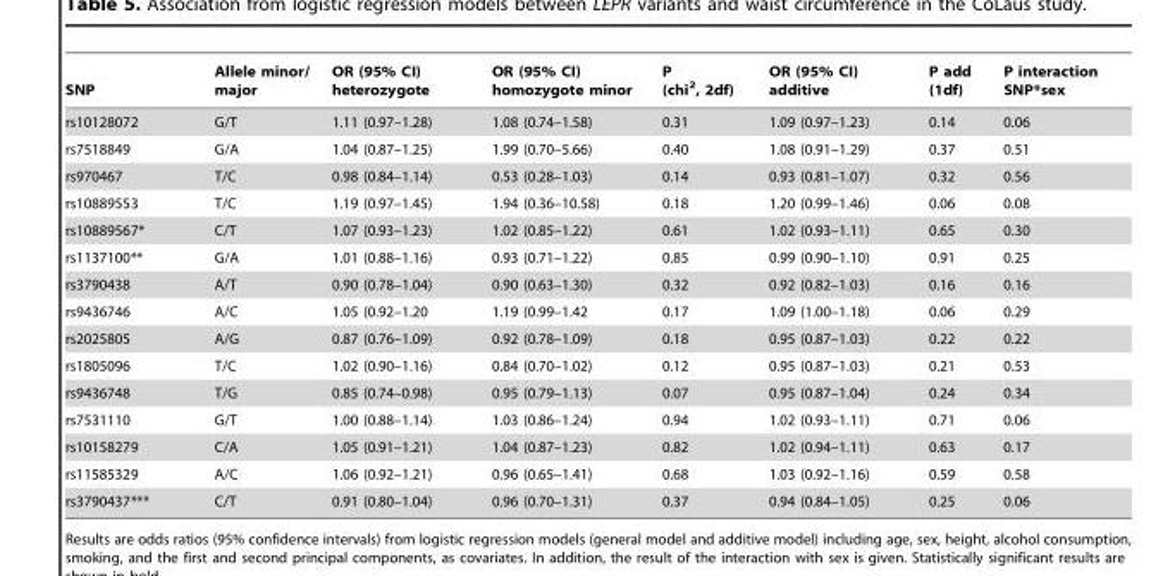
<table><thead><tr><td>SNP</td><td>Allele minor/ major</td><td>OR (95% CI) heterozygote</td><td>OR (95% CI) homozygote minor</td><td>P (chi<sup>2</sup>, 2df)</td><td>OR (95% CI) additive</td><td>P add (1df)</td><td>P interaction SNP*sex</td></tr></thead><tbody><tr><td>rs10128072</td><td>G/T</td><td>1.11 (0.97–1.28)</td><td>1.08 (0.74–1.58)</td><td>0.31</td><td>1.09 (0.97–1.23)</td><td>0.14</td><td>0.06</td></tr><tr><td>rs7518849</td><td>G/A</td><td>1.04 (0.87–1.25)</td><td>1.99 (0.70–5.66)</td><td>0.40</td><td>1.08 (0.91–1.29)</td><td>0.37</td><td>0.51</td></tr><tr><td>rs970467</td><td>T/C</td><td>0.98 (0.84–1.14)</td><td>0.53 (0.28–1.03)</td><td>0.14</td><td>0.93 (0.81–1.07)</td><td>0.32</td><td>0.56</td></tr><tr><td>rs10889553</td><td>T/C</td><td>1.19 (0.97–1.45)</td><td>1.94 (0.36–10.58)</td><td>0.18</td><td>1.20 (0.99–1.46)</td><td>0.06</td><td>0.08</td></tr><tr><td>rs10889567*</td><td>C/T</td><td>1.07 (0.93–1.23)</td><td>1.02 (0.85–1.22)</td><td>0.61</td><td>1.02 (0.93–1.11)</td><td>0.65</td><td>0.30</td></tr><tr><td>rs1137100**</td><td>G/A</td><td>1.01 (0.88–1.16)</td><td>0.93 (0.71–1.22)</td><td>0.85</td><td>0.99 (0.90–1.10)</td><td>0.91</td><td>0.25</td></tr><tr><td>rs3790438</td><td>A/T</td><td>0.90 (0.78–1.04)</td><td>0.90 (0.63–1.30)</td><td>0.32</td><td>0.92 (0.82–1.03)</td><td>0.16</td><td>0.16</td></tr><tr><td>rs9436746</td><td>A/C</td><td>1.05 (0.92–1.20</td><td>1.19 (0.99–1.42</td><td>0.17</td><td>1.09 (1.00–1.18)</td><td>0.06</td><td>0.29</td></tr><tr><td>rs2025805</td><td>A/G</td><td>0.87 (0.76–1.09)</td><td>0.92 (0.78–1.09)</td><td>0.18</td><td>0.95 (0.87–1.03)</td><td>0.22</td><td>0.22</td></tr><tr><td>rs1805096</td><td>T/C</td><td>1.02 (0.90–1.16)</td><td>0.84 (0.70–1.02)</td><td>0.12</td><td>0.95 (0.87–1.03)</td><td>0.21</td><td>0.53</td></tr><tr><td>rs9436748</td><td>T/G</td><td>0.85 (0.74–0.98)</td><td>0.95 (0.79–1.13)</td><td>0.07</td><td>0.95 (0.87–1.04)</td><td>0.24</td><td>0.34</td></tr><tr><td>rs7531110</td><td>G/T</td><td>1.00 (0.88–1.14)</td><td>1.03 (0.86–1.24)</td><td>0.94</td><td>1.02 (0.93–1.11)</td><td>0.71</td><td>0.06</td></tr><tr><td>rs10158279</td><td>C/A</td><td>1.05 (0.91–1.21)</td><td>1.04 (0.87–1.23)</td><td>0.82</td><td>1.02 (0.94–1.11)</td><td>0.63</td><td>0.17</td></tr><tr><td>rs11585329</td><td>A/C</td><td>1.06 (0.92–1.21)</td><td>0.96 (0.65–1.41)</td><td>0.68</td><td>1.03 (0.92–1.16)</td><td>0.59</td><td>0.58</td></tr><tr><td>rs3790437***</td><td>C/T</td><td>0.91 (0.80–1.04)</td><td>0.96 (0.70–1.31)</td><td>0.37</td><td>0.94 (0.84–1.05)</td><td>0.25</td><td>0.06</td></tr></tbody></table>